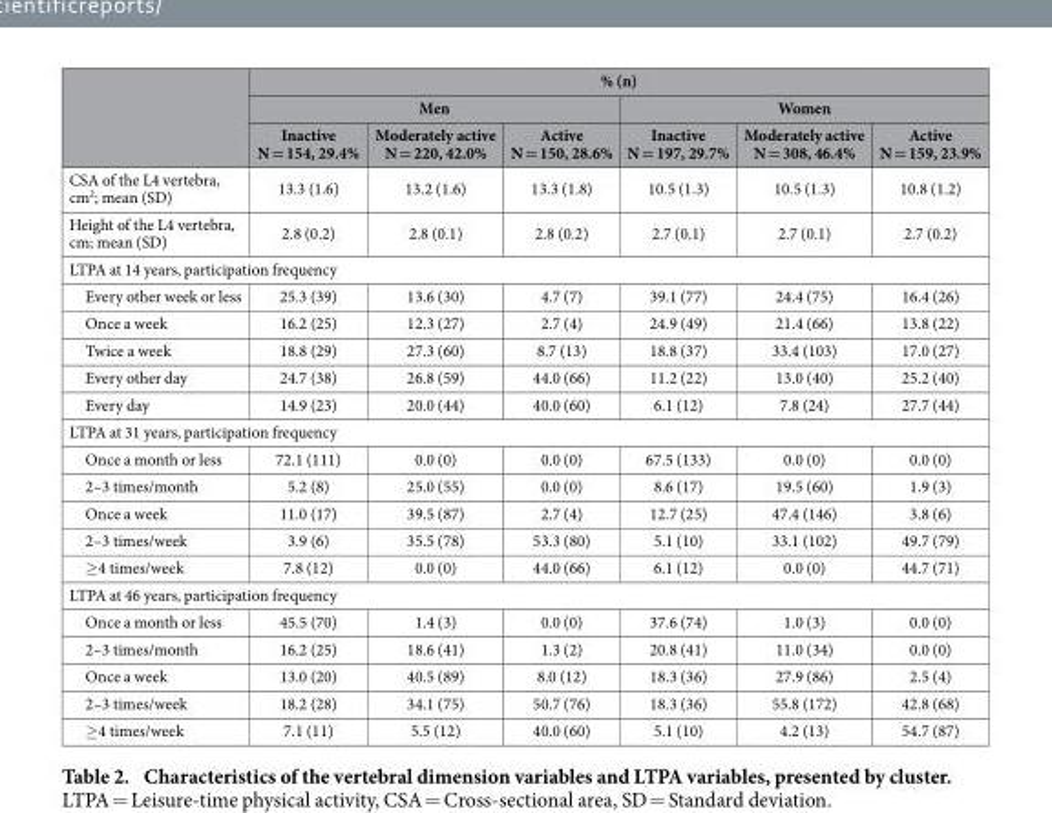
<table><thead><tr><td rowspan="3"></td><td colspan="6">% (n)</td></tr><tr><td colspan="3">Men</td><td colspan="3">Women</td></tr><tr><td>Inactive N = 154, 29.4%</td><td>Moderately active N = 220, 42.0%</td><td>Active N = 150, 28.6%</td><td>Inactive N = 197, 29.7%</td><td>Moderately active N = 308, 46.4%</td><td>Active N = 159, 23.9%</td></tr></thead><tbody><tr><td>CSA of the L4 vertebra, cm<sup>2</sup>; mean (SD)</td><td>13.3 (1.6)</td><td>13.2 (1.6)</td><td>13.3 (1.8)</td><td>10.5 (1.3)</td><td>10.5 (1.3)</td><td>10.8 (1.2)</td></tr><tr><td>Height of the L4 vertebra, cm; mean (SD)</td><td>2.8 (0.2)</td><td>2.8 (0.1)</td><td>2.8 (0.2)</td><td>2.7 (0.1)</td><td>2.7 (0.1)</td><td>2.7 (0.2)</td></tr><tr><td colspan="7">LTPA at 14 years, participation frequency</td></tr><tr><td>Every other week or less</td><td>25.3 (39)</td><td>13.6 (30)</td><td>4.7 (7)</td><td>39.1 (77)</td><td>24.4 (75)</td><td>16.4 (26)</td></tr><tr><td>Once a week</td><td>16.2 (25)</td><td>12.3 (27)</td><td>2.7 (4)</td><td>24.9 (49)</td><td>21.4 (66)</td><td>13.8 (22)</td></tr><tr><td>Twice a week</td><td>18.8 (29)</td><td>27.3 (60)</td><td>8.7 (13)</td><td>18.8 (37)</td><td>33.4 (103)</td><td>17.0 (27)</td></tr><tr><td>Every other day</td><td>24.7 (38)</td><td>26.8 (59)</td><td>44.0 (66)</td><td>11.2 (22)</td><td>13.0 (40)</td><td>25.2 (40)</td></tr><tr><td>Every day</td><td>14.9 (23)</td><td>20.0 (44)</td><td>40.0 (60)</td><td>6.1 (12)</td><td>7.8 (24)</td><td>27.7 (44)</td></tr><tr><td colspan="7">LTPA at 31 years, participation frequency</td></tr><tr><td>Once a month or less</td><td>72.1 (111)</td><td>0.0 (0)</td><td>0.0 (0)</td><td>67.5 (133)</td><td>0.0 (0)</td><td>0.0 (0)</td></tr><tr><td>2–3 times/month</td><td>5.2 (8)</td><td>25.0 (55)</td><td>0.0 (0)</td><td>8.6 (17)</td><td>19.5 (60)</td><td>1.9 (3)</td></tr><tr><td>Once a week</td><td>11.0 (17)</td><td>39.5 (87)</td><td>2.7 (4)</td><td>12.7 (25)</td><td>47.4 (146)</td><td>3.8 (6)</td></tr><tr><td>2–3 times/week</td><td>3.9 (6)</td><td>35.5 (78)</td><td>53.3 (80)</td><td>5.1 (10)</td><td>33.1 (102)</td><td>49.7 (79)</td></tr><tr><td>≥ 4 times/week</td><td>7.8 (12)</td><td>0.0 (0)</td><td>44.0 (66)</td><td>6.1 (12)</td><td>0.0 (0)</td><td>44.7 (71)</td></tr><tr><td colspan="7">LTPA at 46 years, participation frequency</td></tr><tr><td>Once a month or less</td><td>45.5 (70)</td><td>1.4 (3)</td><td>0.0 (0)</td><td>37.6 (74)</td><td>1.0 (3)</td><td>0.0 (0)</td></tr><tr><td>2–3 times/month</td><td>16.2 (25)</td><td>18.6 (41)</td><td>1.3 (2)</td><td>20.8 (41)</td><td>11.0 (34)</td><td>0.0 (0)</td></tr><tr><td>Once a week</td><td>13.0 (20)</td><td>40.5 (89)</td><td>8.0 (12)</td><td>18.3 (36)</td><td>27.9 (86)</td><td>2.5 (4)</td></tr><tr><td>2–3 times/week</td><td>18.2 (28)</td><td>34.1 (75)</td><td>50.7 (76)</td><td>18.3 (36)</td><td>55.8 (172)</td><td>42.8 (68)</td></tr><tr><td>≥ 4 times/week</td><td>7.1 (11)</td><td>5.5 (12)</td><td>40.0 (60)</td><td>5.1 (10)</td><td>4.2 (13)</td><td>54.7 (87)</td></tr></tbody></table>